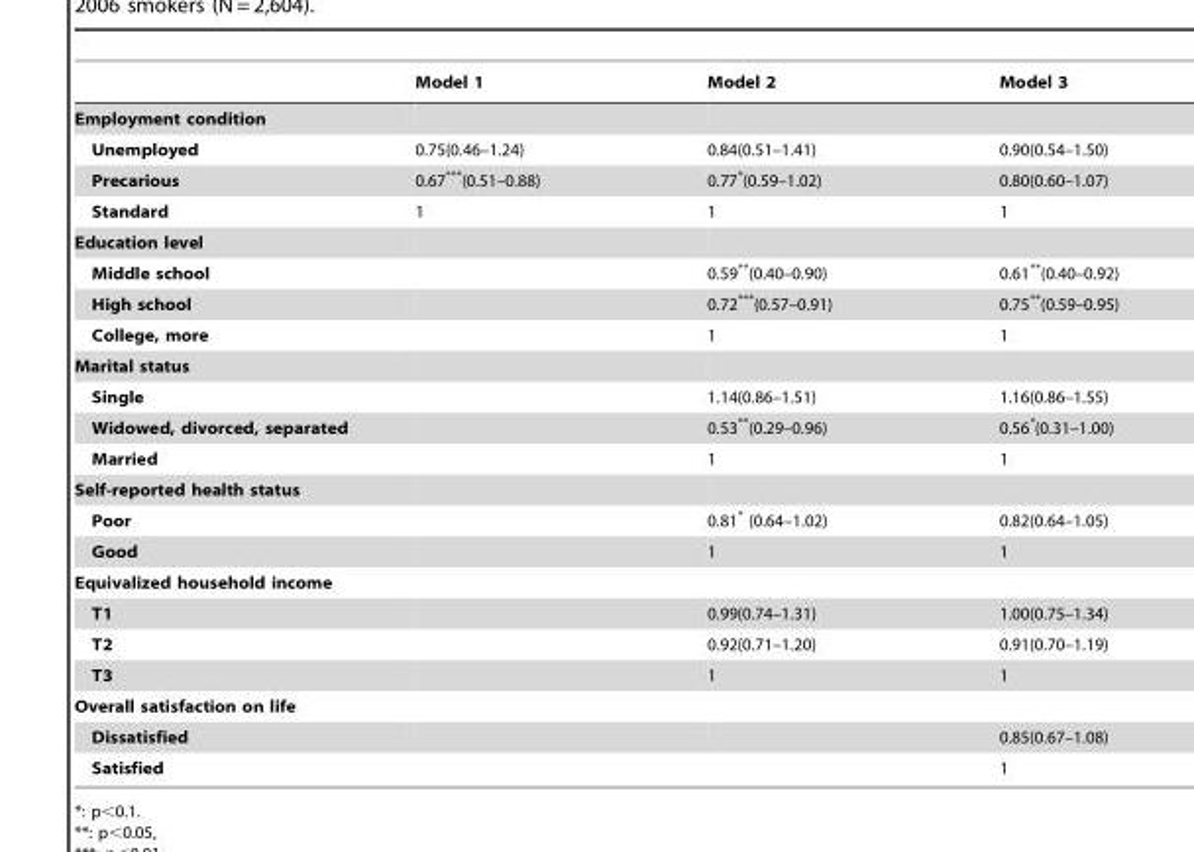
<table><thead><tr><td></td><td>Model 1</td><td>Model 2</td><td>Model 3</td></tr></thead><tbody><tr><td colspan="4">Employment condition</td></tr><tr><td>Unemployed</td><td>0.75(0.46–1.24)</td><td>0.84(0.51–1.41)</td><td>0.90(0.54–1.50)</td></tr><tr><td>Precarious</td><td>0.67***(0.51–0.88)</td><td>0.77*(0.59–1.02)</td><td>0.80(0.60–1.07)</td></tr><tr><td>Standard</td><td>1</td><td>1</td><td>1</td></tr><tr><td colspan="4">Education level</td></tr><tr><td>Middle school</td><td></td><td>0.59**(0.40–0.90)</td><td>0.61**(0.40–0.92)</td></tr><tr><td>High school</td><td></td><td>0.72***(0.57–0.91)</td><td>0.75**(0.59–0.95)</td></tr><tr><td>College, more</td><td></td><td>1</td><td>1</td></tr><tr><td colspan="4">Marital status</td></tr><tr><td>Single</td><td></td><td>1.14(0.86–1.51)</td><td>1.16(0.86–1.55)</td></tr><tr><td>Widowed, divorced, separated</td><td></td><td>0.53**(0.29–0.96)</td><td>0.56*(0.31–1.00)</td></tr><tr><td>Married</td><td></td><td>1</td><td>1</td></tr><tr><td colspan="4">Self-reported health status</td></tr><tr><td>Poor</td><td></td><td>0.81* (0.64–1.02)</td><td>0.82(0.64–1.05)</td></tr><tr><td>Good</td><td></td><td>1</td><td>1</td></tr><tr><td colspan="4">Equivalized household income</td></tr><tr><td>T1</td><td></td><td>0.99(0.74–1.31)</td><td>1.00(0.75–1.34)</td></tr><tr><td>T2</td><td></td><td>0.92(0.71–1.20)</td><td>0.91(0.70–1.19)</td></tr><tr><td>T3</td><td></td><td>1</td><td>1</td></tr><tr><td colspan="4">Overall satisfaction on life</td></tr><tr><td>Dissatisfied</td><td></td><td></td><td>0.85(0.67–1.08)</td></tr><tr><td>Satisfied</td><td></td><td></td><td>1</td></tr></tbody></table>